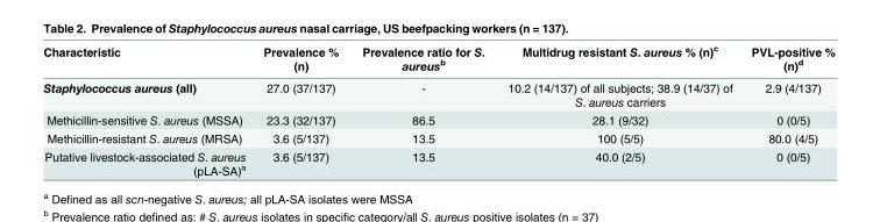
<table><thead><tr><td>Characteristic</td><td>Prevalence % (n)</td><td>Prevalence ratio for S. aureus<sup>b</sup></td><td>Multidrug resistant S. aureus % (n)<sup>c</sup></td><td>PVL-positive % (n)<sup>d</sup></td></tr></thead><tbody><tr><td>Staphylococcus aureus (all)</td><td>27.0 (37/137)</td><td>-</td><td>10.2 (14/137) of all subjects; 38.9 (14/37) of S. aureus carriers</td><td>2.9 (4/137)</td></tr><tr><td>Methicillin-sensitive S. aureus (MSSA)</td><td>23.3 (32/137)</td><td>86.5</td><td>28.1 (9/32)</td><td>0 (0/5)</td></tr><tr><td>Methicillin-resistant S. aureus (MRSA)</td><td>3.6 (5/137)</td><td>13.5</td><td>100 (5/5)</td><td>80.0 (4/5)</td></tr><tr><td>Putative livestock-associated S. aureus (pLA-SA)<sup>a</sup></td><td>3.6 (5/137)</td><td>13.5</td><td>40.0 (2/5)</td><td>0 (0/5)</td></tr></tbody></table>